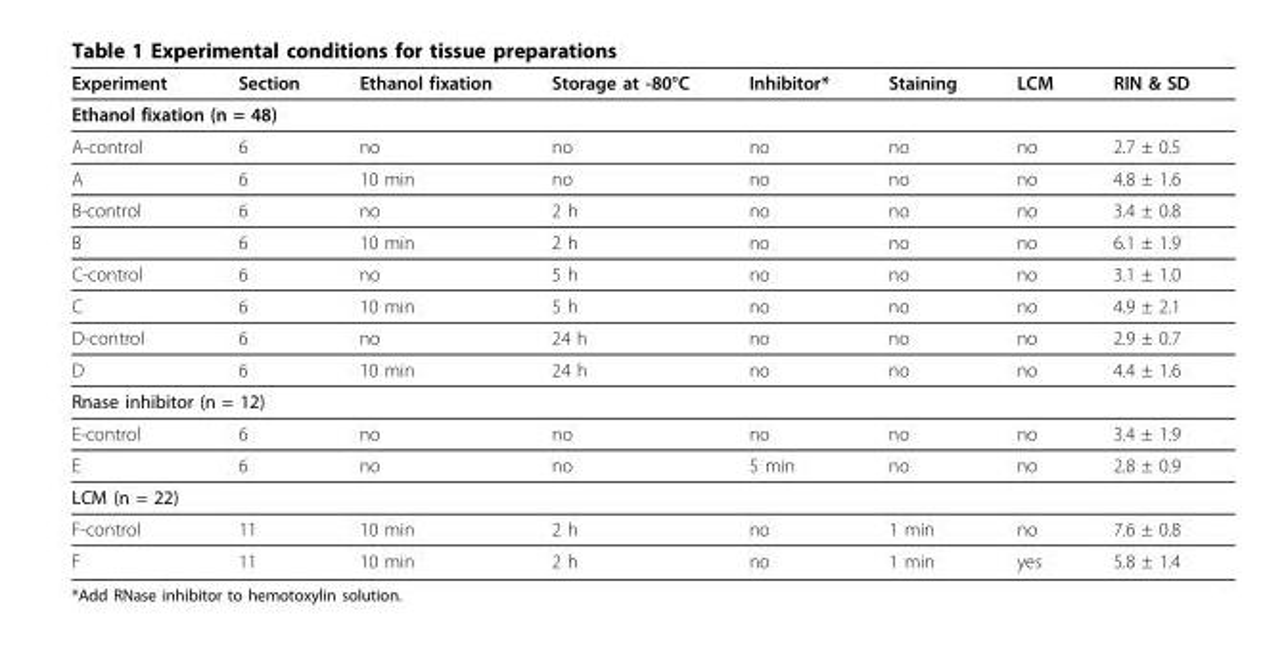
<table><thead><tr><td>Experiment</td><td>Section</td><td>Ethanol fixation</td><td>Storage at -80°C</td><td>Inhibitor*</td><td>Staining</td><td>LCM</td><td>RIN &amp; SD</td></tr></thead><tbody><tr><td colspan="8">Ethanol fixation (n = 48)</td></tr><tr><td>A-control</td><td>6</td><td>no</td><td>no</td><td>no</td><td>no</td><td>no</td><td>2.7 ± 0.5</td></tr><tr><td>A</td><td>6</td><td>10 min</td><td>no</td><td>no</td><td>no</td><td>no</td><td>4.8 ± 1.6</td></tr><tr><td>B-control</td><td>6</td><td>no</td><td>2 h</td><td>no</td><td>no</td><td>no</td><td>3.4 ± 0.8</td></tr><tr><td>B</td><td>6</td><td>10 min</td><td>2 h</td><td>no</td><td>no</td><td>no</td><td>6.1 ± 1.9</td></tr><tr><td>C-control</td><td>6</td><td>no</td><td>5 h</td><td>no</td><td>no</td><td>no</td><td>3.1 ± 1.0</td></tr><tr><td>C</td><td>6</td><td>10 min</td><td>5 h</td><td>no</td><td>no</td><td>no</td><td>4.9 ± 2.1</td></tr><tr><td>D-control</td><td>6</td><td>no</td><td>24 h</td><td>no</td><td>no</td><td>no</td><td>2.9 ± 0.7</td></tr><tr><td>D</td><td>6</td><td>10 min</td><td>24 h</td><td>no</td><td>no</td><td>no</td><td>4.4 ± 1.6</td></tr><tr><td colspan="8">Rnase inhibitor (n = 12)</td></tr><tr><td>E-control</td><td>6</td><td>no</td><td>no</td><td>no</td><td>no</td><td>no</td><td>3.4 ± 1.9</td></tr><tr><td>E</td><td>6</td><td>no</td><td>no</td><td>5 min</td><td>no</td><td>no</td><td>2.8 ± 0.9</td></tr><tr><td colspan="8">LCM (n = 22)</td></tr><tr><td>F-control</td><td>11</td><td>10 min</td><td>2 h</td><td>no</td><td>1 min</td><td>no</td><td>7.6 ± 0.8</td></tr><tr><td>F</td><td>11</td><td>10 min</td><td>2 h</td><td>no</td><td>1 min</td><td>yes</td><td>5.8 ± 1.4</td></tr></tbody></table>